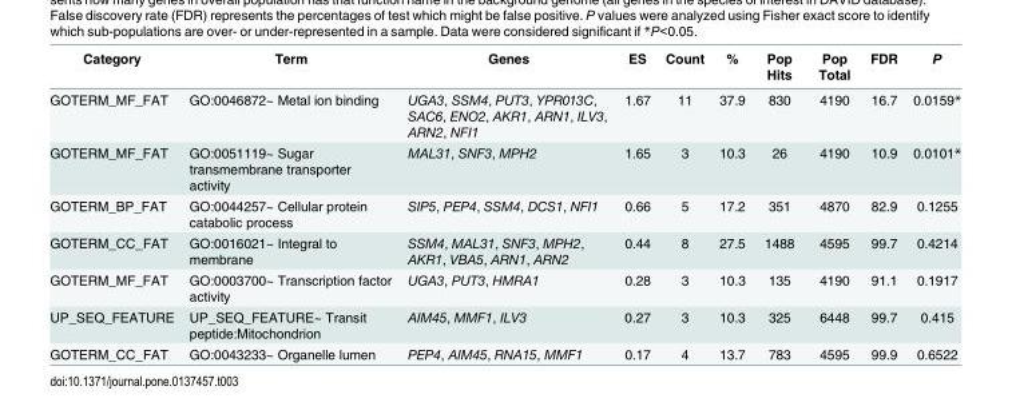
<table><thead><tr><td>Category</td><td>Term</td><td>Genes</td><td>ES</td><td>Count</td><td>%</td><td>Pop Hits</td><td>Pop Total</td><td>FDR</td><td>P</td></tr></thead><tbody><tr><td>GOTERM_MF_FAT</td><td>GO:0046872~ Metal ion binding</td><td>UGA3, SSM4, PUT3, YPR013C, SAC6, ENO2, AKR1, ARN1, ILV3, ARN2, NFI1</td><td>1.67</td><td>11</td><td>37.9</td><td>830</td><td>4190</td><td>16.7</td><td>0.0159*</td></tr><tr><td>GOTERM_MF_FAT</td><td>GO:0051119~ Sugar transmembrane transporter activity</td><td>MAL31, SNF3, MPH2</td><td>1.65</td><td>3</td><td>10.3</td><td>26</td><td>4190</td><td>10.9</td><td>0.0101*</td></tr><tr><td>GOTERM_BP_FAT</td><td>GO:0044257~ Cellular protein catabolic process</td><td>SIP5, PEP4, SSM4, DCS1, NFI1</td><td>0.66</td><td>5</td><td>17.2</td><td>351</td><td>4870</td><td>82.9</td><td>0.1255</td></tr><tr><td>GOTERM_CC_FAT</td><td>GO:0016021~ Integral to membrane</td><td>SSM4, MAL31, SNF3, MPH2, AKR1, VBA5, ARN1, ARN2</td><td>0.44</td><td>8</td><td>27.5</td><td>1488</td><td>4595</td><td>99.7</td><td>0.4214</td></tr><tr><td>GOTERM_MF_FAT</td><td>GO:0003700~ Transcription factor activity</td><td>UGA3, PUT3, HMRA1</td><td>0.28</td><td>3</td><td>10.3</td><td>135</td><td>4190</td><td>91.1</td><td>0.1917</td></tr><tr><td>UP_SEQ_FEATURE</td><td>UP_SEQ_FEATURE~ Transit peptide:Mitochondrion</td><td>AIM45, MMF1, ILV3</td><td>0.27</td><td>3</td><td>10.3</td><td>325</td><td>6448</td><td>99.7</td><td>0.415</td></tr><tr><td>GOTERM_CC_FAT</td><td>GO:0043233~ Organelle lumen</td><td>PEP4, AIM45, RNA15, MMF1</td><td>0.17</td><td>4</td><td>13.7</td><td>783</td><td>4595</td><td>99.9</td><td>0.6522</td></tr></tbody></table>